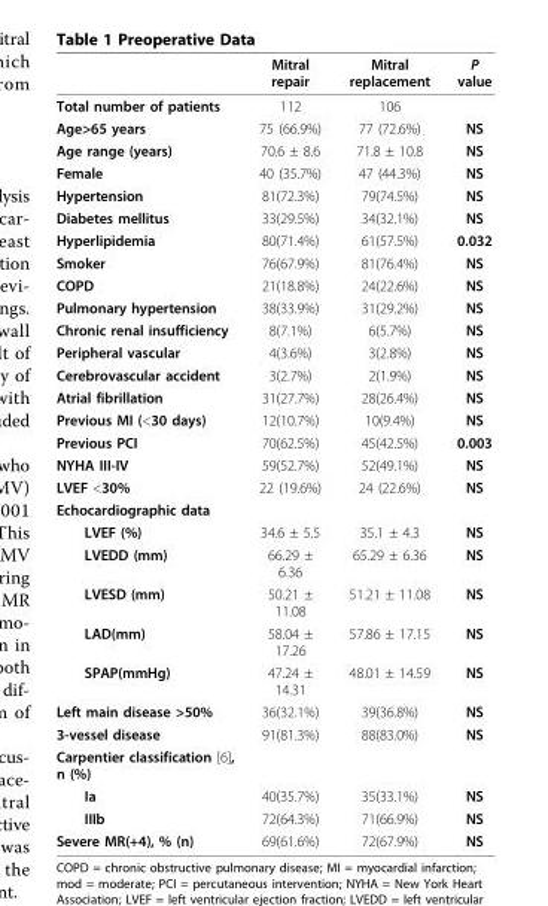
<table><thead><tr><td></td><td>Mitral repair</td><td>Mitral replacement</td><td>P value</td></tr></thead><tbody><tr><td>Total number of patients</td><td>112</td><td>106</td><td></td></tr><tr><td>Age&gt;65 years</td><td>75 (66.9%)</td><td>77 (72.6%)</td><td>NS</td></tr><tr><td>Age range (years)</td><td>70.6 ± 8.6</td><td>71.8 ± 10.8</td><td>NS</td></tr><tr><td>Female</td><td>40 (35.7%)</td><td>47 (44.3%)</td><td>NS</td></tr><tr><td>Hypertension</td><td>81(72.3%)</td><td>79(74.5%)</td><td>NS</td></tr><tr><td>Diabetes mellitus</td><td>33(29.5%)</td><td>34(32.1%)</td><td>NS</td></tr><tr><td>Hyperlipidemia</td><td>80(71.4%)</td><td>61(57.5%)</td><td>0.032</td></tr><tr><td>Smoker</td><td>76(67.9%)</td><td>81(76.4%)</td><td>NS</td></tr><tr><td>COPD</td><td>21(18.8%)</td><td>24(22.6%)</td><td>NS</td></tr><tr><td>Pulmonary hypertension</td><td>38(33.9%)</td><td>31(29.2%)</td><td>NS</td></tr><tr><td>Chronic renal insufficiency</td><td>8(7.1%)</td><td>6(5.7%)</td><td>NS</td></tr><tr><td>Peripheral vascular</td><td>4(3.6%)</td><td>3(2.8%)</td><td>NS</td></tr><tr><td>Cerebrovascular accident</td><td>3(2.7%)</td><td>2(1.9%)</td><td>NS</td></tr><tr><td>Atrial fibrillation</td><td>31(27.7%)</td><td>28(26.4%)</td><td>NS</td></tr><tr><td>Previous MI (&lt;30 days)</td><td>12(10.7%)</td><td>10(9.4%)</td><td>NS</td></tr><tr><td>Previous PCI</td><td>70(62.5%)</td><td>45(42.5%)</td><td>0.003</td></tr><tr><td>NYHA III-IV</td><td>59(52.7%)</td><td>52(49.1%)</td><td>NS</td></tr><tr><td>LVEF &lt;30%</td><td>22 (19.6%)</td><td>24 (22.6%)</td><td>NS</td></tr><tr><td colspan="4">Echocardiographic data</td></tr><tr><td>LVEF (%)</td><td>34.6 ± 5.5</td><td>35.1 ± 4.3</td><td>NS</td></tr><tr><td>LVEDD (mm)</td><td>66.29 ± 6.36</td><td>65.29 ± 6.36</td><td>NS</td></tr><tr><td>LVESD (mm)</td><td>50.21 ± 11.08</td><td>51.21 ± 11.08</td><td>NS</td></tr><tr><td>LAD(mm)</td><td>58.04 ± 17.26</td><td>57.86 ± 17.15</td><td>NS</td></tr><tr><td>SPAP(mmHg)</td><td>47.24 ± 14.31</td><td>48.01 ± 14.59</td><td>NS</td></tr><tr><td>Left main disease &gt;50%</td><td>36(32.1%)</td><td>39(36.8%)</td><td>NS</td></tr><tr><td>3-vessel disease</td><td>91(81.3%)</td><td>88(83.0%)</td><td>NS</td></tr><tr><td colspan="4">Carpentier classification [6], n (%)</td></tr><tr><td>Ia</td><td>40(35.7%)</td><td>35(33.1%)</td><td>NS</td></tr><tr><td>IIIb</td><td>72(64.3%)</td><td>71(66.9%)</td><td>NS</td></tr><tr><td>Severe MR(+4), % (n)</td><td>69(61.6%)</td><td>72(67.9%)</td><td>NS</td></tr></tbody></table>